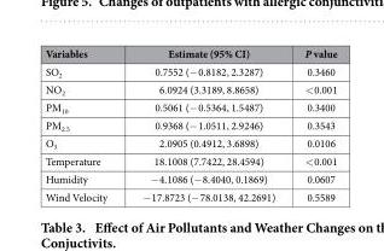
<table><thead><tr><td>Variables</td><td>Estimate (95% CI)</td><td>P value</td></tr></thead><tbody><tr><td>SO<sub>2</sub></td><td>0.7552 (− 0.8182, 2.3287)</td><td>0.3460</td></tr><tr><td>NO<sub>2</sub></td><td>6.0924 (3.3189, 8.8658)</td><td>&lt; 0.001</td></tr><tr><td>PM<sub>10</sub></td><td>0.5061 (− 0.5364, 1.5487)</td><td>0.3400</td></tr><tr><td>PM<sub>2.5</sub></td><td>0.9368 (− 1.0511, 2.9246)</td><td>0.3543</td></tr><tr><td>O<sub>3</sub></td><td>2.0905 (0.4912, 3.6898)</td><td>0.0106</td></tr><tr><td>Temperature</td><td>18.1008 (7.7422, 28.4594)</td><td>&lt; 0.001</td></tr><tr><td>Humidity</td><td>− 4.1086 (− 8.4040, 0.1869)</td><td>0.0607</td></tr><tr><td>Wind Velocity</td><td>− 17.8723 (− 78.0138, 42.2691)</td><td>0.5589</td></tr></tbody></table>